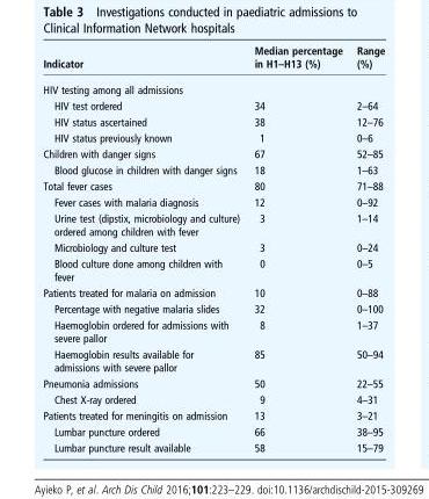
<table><thead><tr><td>Indicator</td><td>Median percentage in H1–H13 (%)</td><td>Range (%)</td></tr></thead><tbody><tr><td colspan="3">HIV testing among all admissions</td></tr><tr><td>HIV test ordered</td><td>34</td><td>2–64</td></tr><tr><td>HIV status ascertained</td><td>38</td><td>12–76</td></tr><tr><td>HIV status previously known</td><td>1</td><td>0–6</td></tr><tr><td>Children with danger signs</td><td>67</td><td>52–85</td></tr><tr><td>Blood glucose in children with danger signs</td><td>18</td><td>1–63</td></tr><tr><td>Total fever cases</td><td>80</td><td>71–88</td></tr><tr><td>Fever cases with malaria diagnosis</td><td>12</td><td>0–92</td></tr><tr><td>Urine test (dipstix, microbiology and culture) ordered among children with fever</td><td>3</td><td>1–14</td></tr><tr><td>Microbiology and culture test</td><td>3</td><td>0–24</td></tr><tr><td>Blood culture done among children with fever</td><td>0</td><td>0–5</td></tr><tr><td>Patients treated for malaria on admission</td><td>10</td><td>0–88</td></tr><tr><td>Percentage with negative malaria slides</td><td>32</td><td>0–100</td></tr><tr><td>Haemoglobin ordered for admissions with severe pallor</td><td>8</td><td>1–37</td></tr><tr><td>Haemoglobin results available for admissions with severe pallor</td><td>85</td><td>50–94</td></tr><tr><td>Pneumonia admissions</td><td>50</td><td>22–55</td></tr><tr><td>Chest X-ray ordered</td><td>9</td><td>4–31</td></tr><tr><td>Patients treated for meningitis on admission</td><td>13</td><td>3–21</td></tr><tr><td>Lumbar puncture ordered</td><td>66</td><td>38–95</td></tr><tr><td>Lumbar puncture result available</td><td>58</td><td>15–79</td></tr></tbody></table>